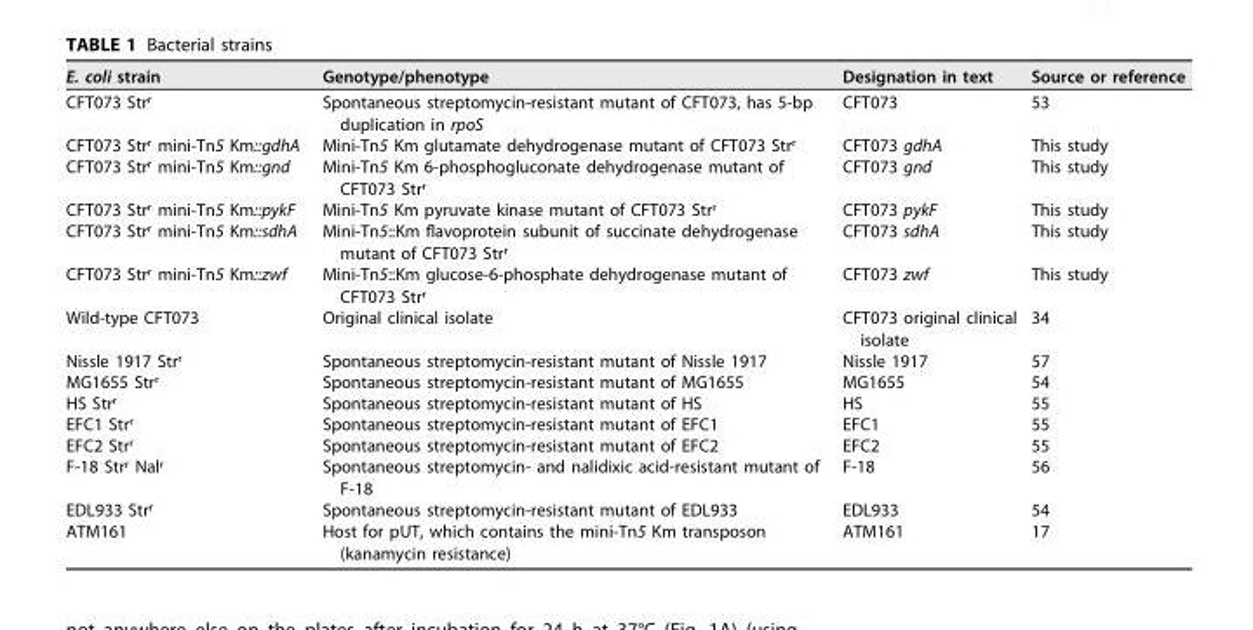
<table><thead><tr><td>E. coli strain</td><td>Genotype/phenotype</td><td>Designation in text</td><td>Source or reference</td></tr></thead><tbody><tr><td>CFT073 Str<sup>r</sup></td><td>Spontaneous streptomycin-resistant mutant of CFT073, has 5-bp duplication in rpoS</td><td>CFT073</td><td>53</td></tr><tr><td>CFT073 Str<sup>r</sup> mini-Tn5 Km::gdhA</td><td>Mini-Tn5 Km glutamate dehydrogenase mutant of CFT073 Str<sup>r</sup></td><td>CFT073 gdhA</td><td>This study</td></tr><tr><td>CFT073 Str<sup>r</sup> mini-Tn5 Km::gnd</td><td>Mini-Tn5 Km 6-phosphogluconate dehydrogenase mutant of CFT073 Str<sup>r</sup></td><td>CFT073 gnd</td><td>This study</td></tr><tr><td>CFT073 Str<sup>r</sup> mini-Tn5 Km::pykF</td><td>Mini-Tn5 Km pyruvate kinase mutant of CFT073 Str<sup>r</sup></td><td>CFT073 pykF</td><td>This study</td></tr><tr><td>CFT073 Str<sup>r</sup> mini-Tn5 Km::sdhA</td><td>Mini-Tn5::Km flavoprotein subunit of succinate dehydrogenase mutant of CFT073 Str<sup>r</sup></td><td>CFT073 sdhA</td><td>This study</td></tr><tr><td>CFT073 Str<sup>r</sup> mini-Tn5 Km::zwf</td><td>Mini-Tn5::Km glucose-6-phosphate dehydrogenase mutant of CFT073 Str<sup>r</sup></td><td>CFT073 zwf</td><td>This study</td></tr><tr><td>Wild-type CFT073</td><td>Original clinical isolate</td><td>CFT073 original clinical isolate</td><td>34</td></tr><tr><td>Nissle 1917 Str<sup>r</sup></td><td>Spontaneous streptomycin-resistant mutant of Nissle 1917</td><td>Nissle 1917</td><td>57</td></tr><tr><td>MG1655 Str<sup>r</sup></td><td>Spontaneous streptomycin-resistant mutant of MG1655</td><td>MG1655</td><td>54</td></tr><tr><td>HS Str<sup>r</sup></td><td>Spontaneous streptomycin-resistant mutant of HS</td><td>HS</td><td>55</td></tr><tr><td>EFC1 Str<sup>r</sup></td><td>Spontaneous streptomycin-resistant mutant of EFC1</td><td>EFC1</td><td>55</td></tr><tr><td>EFC2 Str<sup>r</sup></td><td>Spontaneous streptomycin-resistant mutant of EFC2</td><td>EFC2</td><td>55</td></tr><tr><td>F-18 Str<sup>r</sup> Nal<sup>r</sup></td><td>Spontaneous streptomycin- and nalidixic acid-resistant mutant of F-18</td><td>F-18</td><td>56</td></tr><tr><td>EDL933 Str<sup>r</sup></td><td>Spontaneous streptomycin-resistant mutant of EDL933</td><td>EDL933</td><td>54</td></tr><tr><td>ATM161</td><td>Host for pUT, which contains the mini-Tn5 Km transposon (kanamycin resistance)</td><td>ATM161</td><td>17</td></tr></tbody></table>